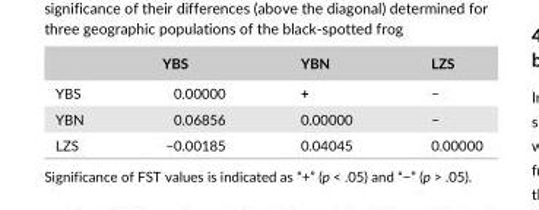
<table><thead><tr><td></td><td>YBS</td><td>YBN</td><td>LZS</td></tr></thead><tbody><tr><td>YBS</td><td>0.00000</td><td>+</td><td>−</td></tr><tr><td>YBN</td><td>0.06856</td><td>0.00000</td><td>−</td></tr><tr><td>LZS</td><td>−0.00185</td><td>0.04045</td><td>0.00000</td></tr></tbody></table>